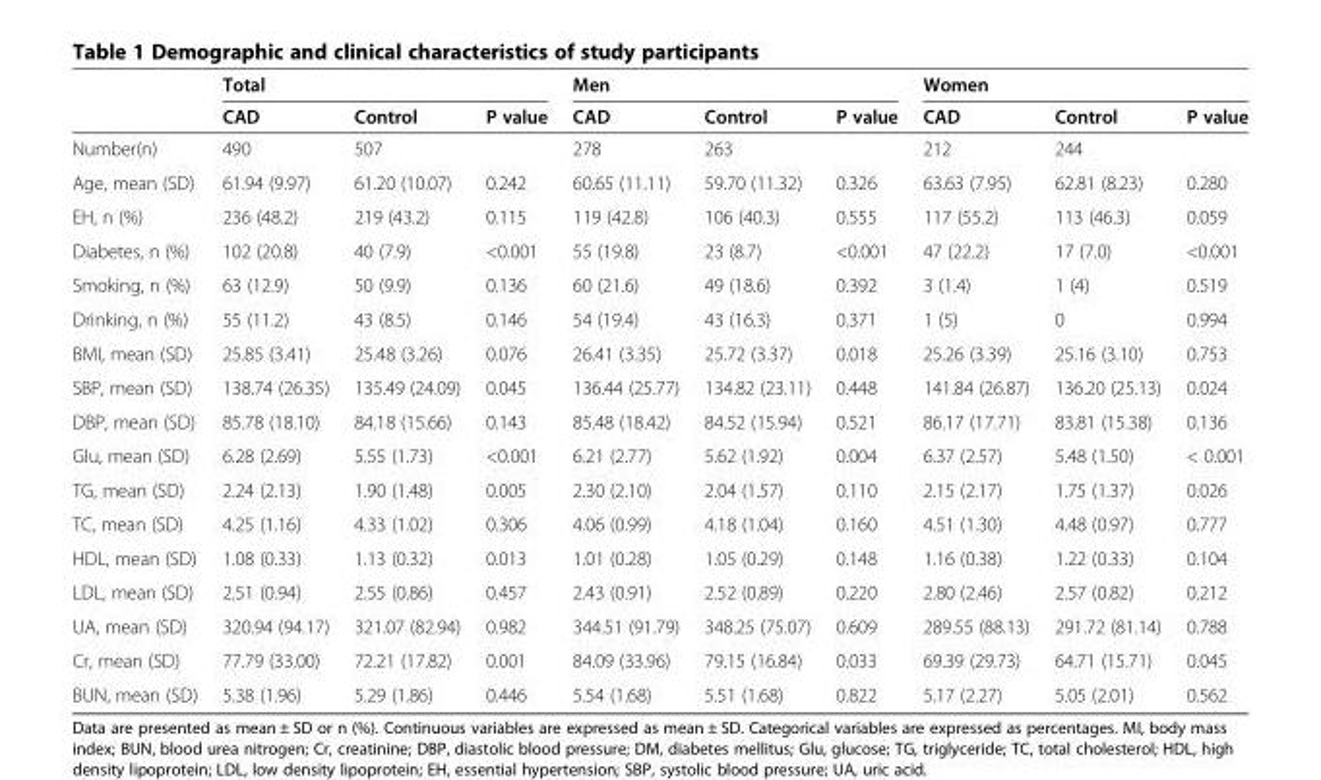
<table><thead><tr><td rowspan="2"></td><td colspan="3">Total</td><td colspan="3">Men</td><td colspan="3">Women</td></tr><tr><td>CAD</td><td>Control</td><td>P value</td><td>CAD</td><td>Control</td><td>P value</td><td>CAD</td><td>Control</td><td>P value</td></tr></thead><tbody><tr><td>Number(n)</td><td>490</td><td>507</td><td></td><td>278</td><td>263</td><td></td><td>212</td><td>244</td><td></td></tr><tr><td>Age, mean (SD)</td><td>61.94 (9.97)</td><td>61.20 (10.07)</td><td>0.242</td><td>60.65 (11.11)</td><td>59.70 (11.32)</td><td>0.326</td><td>63.63 (7.95)</td><td>62.81 (8.23)</td><td>0.280</td></tr><tr><td>EH, n (%)</td><td>236 (48.2)</td><td>219 (43.2)</td><td>0.115</td><td>119 (42.8)</td><td>106 (40.3)</td><td>0.555</td><td>117 (55.2)</td><td>113 (46.3)</td><td>0.059</td></tr><tr><td>Diabetes, n (%)</td><td>102 (20.8)</td><td>40 (7.9)</td><td>&lt;0.001</td><td>55 (19.8)</td><td>23 (8.7)</td><td>&lt;0.001</td><td>47 (22.2)</td><td>17 (7.0)</td><td>&lt;0.001</td></tr><tr><td>Smoking, n (%)</td><td>63 (12.9)</td><td>50 (9.9)</td><td>0.136</td><td>60 (21.6)</td><td>49 (18.6)</td><td>0.392</td><td>3 (1.4)</td><td>1 (4)</td><td>0.519</td></tr><tr><td>Drinking, n (%)</td><td>55 (11.2)</td><td>43 (8.5)</td><td>0.146</td><td>54 (19.4)</td><td>43 (16.3)</td><td>0.371</td><td>1 (5)</td><td>0</td><td>0.994</td></tr><tr><td>BMI, mean (SD)</td><td>25.85 (3.41)</td><td>25.48 (3.26)</td><td>0.076</td><td>26.41 (3.35)</td><td>25.72 (3.37)</td><td>0.018</td><td>25.26 (3.39)</td><td>25.16 (3.10)</td><td>0.753</td></tr><tr><td>SBP, mean (SD)</td><td>138.74 (26.35)</td><td>135.49 (24.09)</td><td>0.045</td><td>136.44 (25.77)</td><td>134.82 (23.11)</td><td>0.448</td><td>141.84 (26.87)</td><td>136.20 (25.13)</td><td>0.024</td></tr><tr><td>DBP, mean (SD)</td><td>85.78 (18.10)</td><td>84.18 (15.66)</td><td>0.143</td><td>85.48 (18.42)</td><td>84.52 (15.94)</td><td>0.521</td><td>86.17 (17.71)</td><td>83.81 (15.38)</td><td>0.136</td></tr><tr><td>Glu, mean (SD)</td><td>6.28 (2.69)</td><td>5.55 (1.73)</td><td>&lt;0.001</td><td>6.21 (2.77)</td><td>5.62 (1.92)</td><td>0.004</td><td>6.37 (2.57)</td><td>5.48 (1.50)</td><td>&lt; 0.001</td></tr><tr><td>TG, mean (SD)</td><td>2.24 (2.13)</td><td>1.90 (1.48)</td><td>0.005</td><td>2.30 (2.10)</td><td>2.04 (1.57)</td><td>0.110</td><td>2.15 (2.17)</td><td>1.75 (1.37)</td><td>0.026</td></tr><tr><td>TC, mean (SD)</td><td>4.25 (1.16)</td><td>4.33 (1.02)</td><td>0.306</td><td>4.06 (0.99)</td><td>4.18 (1.04)</td><td>0.160</td><td>4.51 (1.30)</td><td>4.48 (0.97)</td><td>0.777</td></tr><tr><td>HDL, mean (SD)</td><td>1.08 (0.33)</td><td>1.13 (0.32)</td><td>0.013</td><td>1.01 (0.28)</td><td>1.05 (0.29)</td><td>0.148</td><td>1.16 (0.38)</td><td>1.22 (0.33)</td><td>0.104</td></tr><tr><td>LDL, mean (SD)</td><td>2.51 (0.94)</td><td>2.55 (0.86)</td><td>0.457</td><td>2.43 (0.91)</td><td>2.52 (0.89)</td><td>0.220</td><td>2.80 (2.46)</td><td>2.57 (0.82)</td><td>0.212</td></tr><tr><td>UA, mean (SD)</td><td>320.94 (94.17)</td><td>321.07 (82.94)</td><td>0.982</td><td>344.51 (91.79)</td><td>348.25 (75.07)</td><td>0.609</td><td>289.55 (88.13)</td><td>291.72 (81.14)</td><td>0.788</td></tr><tr><td>Cr, mean (SD)</td><td>77.79 (33.00)</td><td>72.21 (17.82)</td><td>0.001</td><td>84.09 (33.96)</td><td>79.15 (16.84)</td><td>0.033</td><td>69.39 (29.73)</td><td>64.71 (15.71)</td><td>0.045</td></tr><tr><td>BUN, mean (SD)</td><td>5.38 (1.96)</td><td>5.29 (1.86)</td><td>0.446</td><td>5.54 (1.68)</td><td>5.51 (1.68)</td><td>0.822</td><td>5.17 (2.27)</td><td>5.05 (2.01)</td><td>0.562</td></tr></tbody></table>